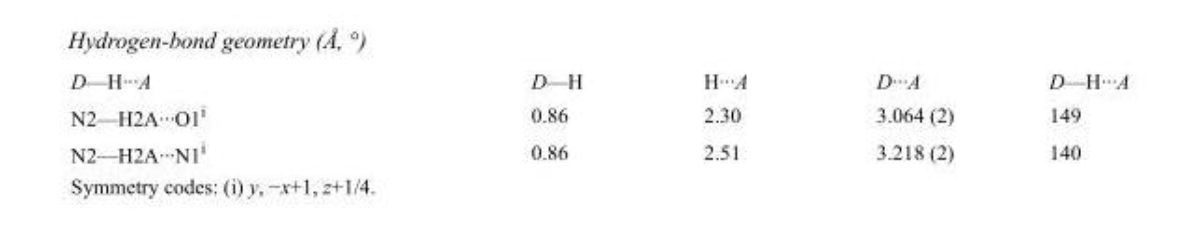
<table><tbody><tr><td>D—H···A</td><td>D—H</td><td>H···A</td><td>D···A</td><td>D—H···A</td></tr><tr><td>N2—H2A···O1<sup>i</sup></td><td>0.86</td><td>2.30</td><td>3.064 (2)</td><td>149</td></tr><tr><td>N2—H2A···N1<sup>i</sup></td><td>0.86</td><td>2.51</td><td>3.218 (2)</td><td>140</td></tr></tbody></table>